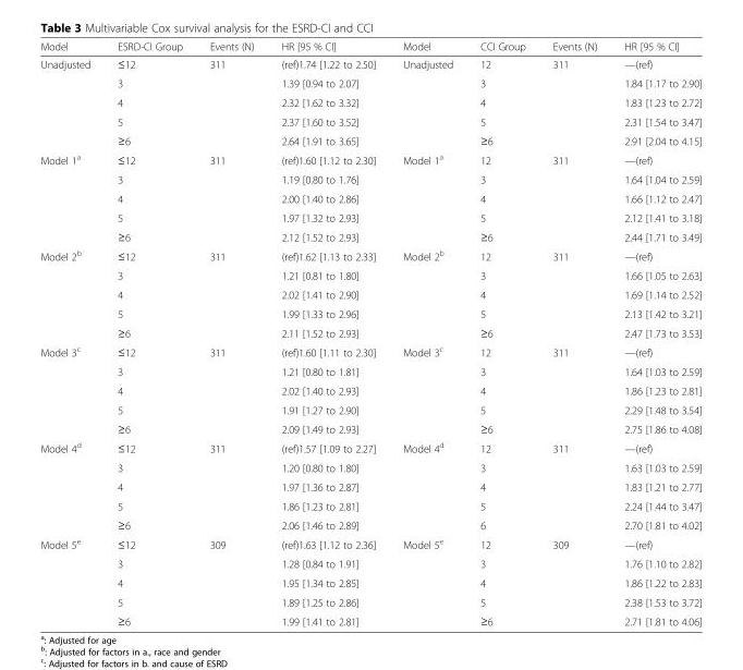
<table><thead><tr><td>Model</td><td>ESRD-CI Group</td><td>Events (N)</td><td>HR [95 % CI]</td><td>Model</td><td>CCI Group</td><td>Events (N)</td><td>HR [95 % CI]</td></tr></thead><tbody><tr><td rowspan="5">Unadjusted</td><td>≤12</td><td>311</td><td>(ref)1.74 [1.22 to 2.50]</td><td>Unadjusted</td><td>12</td><td>311</td><td>—(ref)</td></tr><tr><td>3</td><td></td><td>1.39 [0.94 to 2.07]</td><td></td><td>3</td><td></td><td>1.84 [1.17 to 2.90]</td></tr><tr><td>4</td><td></td><td>2.32 [1.62 to 3.32]</td><td></td><td>4</td><td></td><td>1.83 [1.23 to 2.72]</td></tr><tr><td>5</td><td></td><td>2.37 [1.60 to 3.52]</td><td></td><td>5</td><td></td><td>2.31 [1.54 to 3.47]</td></tr><tr><td>≥6</td><td></td><td>2.64 [1.91 to 3.65]</td><td></td><td>≥6</td><td></td><td>2.91 [2.04 to 4.15]</td></tr><tr><td rowspan="5">Model 1<sup>a</sup></td><td>≤12</td><td>311</td><td>(ref)1.60 [1.12 to 2.30]</td><td>Model 1<sup>a</sup></td><td>12</td><td>311</td><td>—(ref)</td></tr><tr><td>3</td><td></td><td>1.19 [0.80 to 1.76]</td><td></td><td>3</td><td></td><td>1.64 [1.04 to 2.59]</td></tr><tr><td>4</td><td></td><td>2.00 [1.40 to 2.86]</td><td></td><td>4</td><td></td><td>1.66 [1.12 to 2.47]</td></tr><tr><td>5</td><td></td><td>1.97 [1.32 to 2.93]</td><td></td><td>5</td><td></td><td>2.12 [1.41 to 3.18]</td></tr><tr><td>≥6</td><td></td><td>2.12 [1.52 to 2.93]</td><td></td><td>≥6</td><td></td><td>2.44 [1.71 to 3.49]</td></tr><tr><td rowspan="5">Model 2<sup>b</sup></td><td>≤12</td><td>311</td><td>(ref)1.62 [1.13 to 2.33]</td><td>Model 2<sup>b</sup></td><td>12</td><td>311</td><td>—(ref)</td></tr><tr><td>3</td><td></td><td>1.21 [0.81 to 1.80]</td><td></td><td>3</td><td></td><td>1.66 [1.05 to 2.63]</td></tr><tr><td>4</td><td></td><td>2.02 [1.41 to 2.90]</td><td></td><td>4</td><td></td><td>1.69 [1.14 to 2.52]</td></tr><tr><td>5</td><td></td><td>1.99 [1.33 to 2.96]</td><td></td><td>5</td><td></td><td>2.13 [1.42 to 3.21]</td></tr><tr><td>≥6</td><td></td><td>2.11 [1.52 to 2.93]</td><td></td><td>≥6</td><td></td><td>2.47 [1.73 to 3.53]</td></tr><tr><td rowspan="5">Model 3<sup>c</sup></td><td>≤12</td><td>311</td><td>(ref)1.60 [1.11 to 2.30]</td><td>Model 3<sup>c</sup></td><td>12</td><td>311</td><td>—(ref)</td></tr><tr><td>3</td><td></td><td>1.21 [0.80 to 1.81]</td><td></td><td>3</td><td></td><td>1.64 [1.03 to 2.59]</td></tr><tr><td>4</td><td></td><td>2.02 [1.40 to 2.93]</td><td></td><td>4</td><td></td><td>1.86 [1.23 to 2.81]</td></tr><tr><td>5</td><td></td><td>1.91 [1.27 to 2.90]</td><td></td><td>5</td><td></td><td>2.29 [1.48 to 3.54]</td></tr><tr><td>≥6</td><td></td><td>2.09 [1.49 to 2.93]</td><td></td><td>≥6</td><td></td><td>2.75 [1.86 to 4.08]</td></tr><tr><td rowspan="5">Model 4<sup>d</sup></td><td>≤12</td><td>311</td><td>(ref)1.57 [1.09 to 2.27]</td><td>Model 4<sup>d</sup></td><td>12</td><td>311</td><td>—(ref)</td></tr><tr><td>3</td><td></td><td>1.20 [0.80 to 1.80]</td><td></td><td>3</td><td></td><td>1.63 [1.03 to 2.59]</td></tr><tr><td>4</td><td></td><td>1.97 [1.36 to 2.87]</td><td></td><td>4</td><td></td><td>1.83 [1.21 to 2.77]</td></tr><tr><td>5</td><td></td><td>1.86 [1.23 to 2.81]</td><td></td><td>5</td><td></td><td>2.24 [1.44 to 3.47]</td></tr><tr><td>≥6</td><td></td><td>2.06 [1.46 to 2.89]</td><td></td><td>6</td><td></td><td>2.70 [1.81 to 4.02]</td></tr><tr><td rowspan="5">Model 5<sup>e</sup></td><td>≤12</td><td>309</td><td>(ref)1.63 [1.12 to 2.36]</td><td>Model 5<sup>e</sup></td><td>12</td><td>309</td><td>—(ref)</td></tr><tr><td>3</td><td></td><td>1.28 [0.84 to 1.91]</td><td></td><td>3</td><td></td><td>1.76 [1.10 to 2.82]</td></tr><tr><td>4</td><td></td><td>1.95 [1.34 to 2.85]</td><td></td><td>4</td><td></td><td>1.86 [1.22 to 2.83]</td></tr><tr><td>5</td><td></td><td>1.89 [1.25 to 2.86]</td><td></td><td>5</td><td></td><td>2.38 [1.53 to 3.72]</td></tr><tr><td>≥6</td><td></td><td>1.99 [1.41 to 2.81]</td><td></td><td>≥6</td><td></td><td>2.71 [1.81 to 4.06]</td></tr></tbody></table>